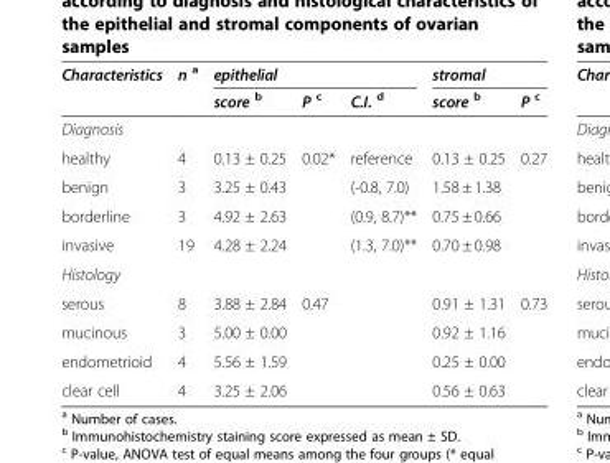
<table><thead><tr><td rowspan="2">Characteristics</td><td rowspan="2">n <sup>a</sup></td><td colspan="3">epithelial</td><td colspan="2">stromal</td></tr><tr><td>score <sup>b</sup></td><td>P <sup>c</sup></td><td>C.I. <sup>d</sup></td><td>score <sup>b</sup></td><td>P <sup>c</sup></td></tr></thead><tbody><tr><td colspan="7">Diagnosis</td></tr><tr><td>healthy</td><td>4</td><td>0.13 ± 0.25</td><td>0.02*</td><td>reference</td><td>0.13 ± 0.25</td><td>0.27</td></tr><tr><td>benign</td><td>3</td><td>3.25 ± 0.43</td><td></td><td>(-0.8, 7.0)</td><td>1.58 ± 1.38</td><td></td></tr><tr><td>borderline</td><td>3</td><td>4.92 ± 2.63</td><td></td><td>(0.9, 8.7)**</td><td>0.75 ± 0.66</td><td></td></tr><tr><td>invasive</td><td>19</td><td>4.28 ± 2.24</td><td></td><td>(1.3, 7.0)**</td><td>0.70 ± 0.98</td><td></td></tr><tr><td colspan="7">Histology</td></tr><tr><td>serous</td><td>8</td><td>3.88 ± 2.84</td><td>0.47</td><td></td><td>0.91 ± 1.31</td><td>0.73</td></tr><tr><td>mucinous</td><td>3</td><td>5.00 ± 0.00</td><td></td><td></td><td>0.92 ± 1.16</td><td></td></tr><tr><td>endometrioid</td><td>4</td><td>5.56 ± 1.59</td><td></td><td></td><td>0.25 ± 0.00</td><td></td></tr><tr><td>clear cell</td><td>4</td><td>3.25 ± 2.06</td><td></td><td></td><td>0.56 ± 0.63</td><td></td></tr></tbody></table>